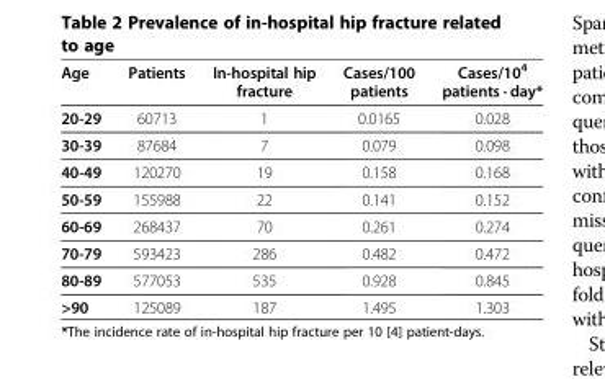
<table><thead><tr><td>Age</td><td>Patients</td><td>In-hospital hip fracture</td><td>Cases/100 patients</td><td>Cases/10<sup>4</sup> patients · day*</td></tr></thead><tbody><tr><td>20-29</td><td>60713</td><td>1</td><td>0.0165</td><td>0.028</td></tr><tr><td>30-39</td><td>87684</td><td>7</td><td>0.079</td><td>0.098</td></tr><tr><td>40-49</td><td>120270</td><td>19</td><td>0.158</td><td>0.168</td></tr><tr><td>50-59</td><td>155988</td><td>22</td><td>0.141</td><td>0.152</td></tr><tr><td>60-69</td><td>268437</td><td>70</td><td>0.261</td><td>0.274</td></tr><tr><td>70-79</td><td>593423</td><td>286</td><td>0.482</td><td>0.472</td></tr><tr><td>80-89</td><td>577053</td><td>535</td><td>0.928</td><td>0.845</td></tr><tr><td>&gt;90</td><td>125089</td><td>187</td><td>1.495</td><td>1.303</td></tr></tbody></table>